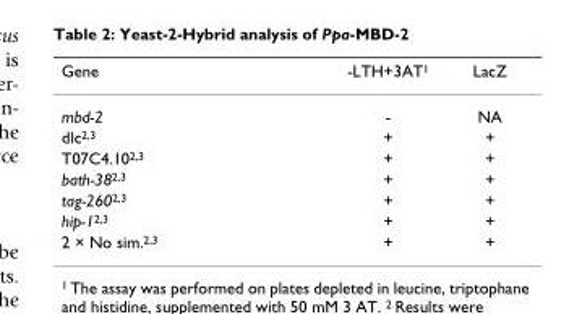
<table><thead><tr><td>Gene</td><td>-LTH+3AT<sup>1</sup></td><td>LacZ</td></tr></thead><tbody><tr><td>mbd-2</td><td>-</td><td>NA</td></tr><tr><td>dlc<sup>2,3</sup></td><td>+</td><td>+</td></tr><tr><td>T07C4.10<sup>2,3</sup></td><td>+</td><td>+</td></tr><tr><td>bath-38<sup>2,3</sup></td><td>+</td><td>+</td></tr><tr><td>tag-260<sup>2,3</sup></td><td>+</td><td>+</td></tr><tr><td>hip-1<sup>2,3</sup></td><td>+</td><td>+</td></tr><tr><td>2 × No sim.<sup>2,3</sup></td><td>+</td><td>+</td></tr></tbody></table>